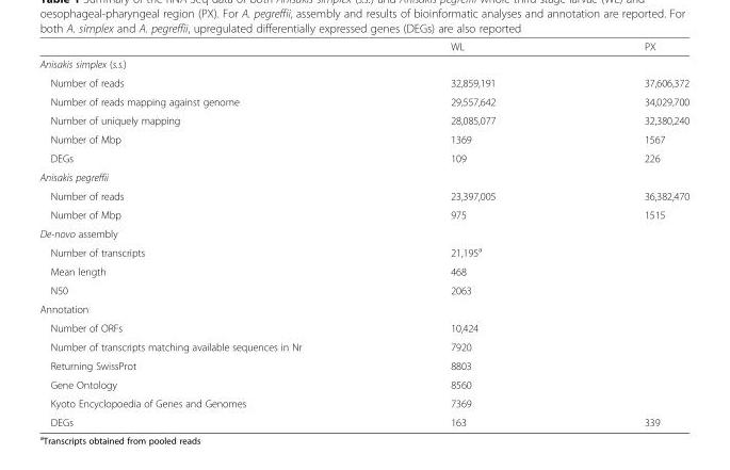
<table><thead><tr><td></td><td>WL</td><td>PX</td></tr></thead><tbody><tr><td colspan="3">Anisakis simplex (s.s.)</td></tr><tr><td>Number of reads</td><td>32,859,191</td><td>37,606,372</td></tr><tr><td>Number of reads mapping against genome</td><td>29,557,642</td><td>34,029,700</td></tr><tr><td>Number of uniquely mapping</td><td>28,085,077</td><td>32,380,240</td></tr><tr><td>Number of Mbp</td><td>1369</td><td>1567</td></tr><tr><td>DEGs</td><td>109</td><td>226</td></tr><tr><td colspan="3">Anisakis pegreffii</td></tr><tr><td>Number of reads</td><td>23,397,005</td><td>36,382,470</td></tr><tr><td>Number of Mbp</td><td>975</td><td>1515</td></tr><tr><td colspan="3">De-novo assembly</td></tr><tr><td>Number of transcripts</td><td colspan="2">21,195<sup>a</sup></td></tr><tr><td>Mean length</td><td colspan="2">468</td></tr><tr><td>N50</td><td colspan="2">2063</td></tr><tr><td colspan="3">Annotation</td></tr><tr><td>Number of ORFs</td><td colspan="2">10,424</td></tr><tr><td>Number of transcripts matching available sequences in Nr</td><td colspan="2">7920</td></tr><tr><td>Returning SwissProt</td><td colspan="2">8803</td></tr><tr><td>Gene Ontology</td><td colspan="2">8560</td></tr><tr><td>Kyoto Encyclopoedia of Genes and Genomes</td><td colspan="2">7369</td></tr><tr><td>DEGs</td><td>163</td><td>339</td></tr></tbody></table>